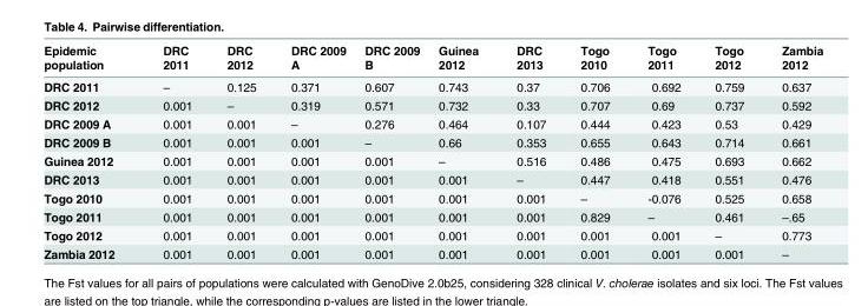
<table><thead><tr><td>Epidemic population</td><td>DRC 2011</td><td>DRC 2012</td><td>DRC 2009 A</td><td>DRC 2009 B</td><td>Guinea 2012</td><td>DRC 2013</td><td>Togo 2010</td><td>Togo 2011</td><td>Togo 2012</td><td>Zambia 2012</td></tr></thead><tbody><tr><td>DRC 2011</td><td>–</td><td>0.125</td><td>0.371</td><td>0.607</td><td>0.743</td><td>0.37</td><td>0.706</td><td>0.692</td><td>0.759</td><td>0.637</td></tr><tr><td>DRC 2012</td><td>0.001</td><td>–</td><td>0.319</td><td>0.571</td><td>0.732</td><td>0.33</td><td>0.707</td><td>0.69</td><td>0.737</td><td>0.592</td></tr><tr><td>DRC 2009 A</td><td>0.001</td><td>0.001</td><td>–</td><td>0.276</td><td>0.464</td><td>0.107</td><td>0.444</td><td>0.423</td><td>0.53</td><td>0.429</td></tr><tr><td>DRC 2009 B</td><td>0.001</td><td>0.001</td><td>0.001</td><td>–</td><td>0.66</td><td>0.353</td><td>0.655</td><td>0.643</td><td>0.714</td><td>0.661</td></tr><tr><td>Guinea 2012</td><td>0.001</td><td>0.001</td><td>0.001</td><td>0.001</td><td>–</td><td>0.516</td><td>0.486</td><td>0.475</td><td>0.693</td><td>0.662</td></tr><tr><td>DRC 2013</td><td>0.001</td><td>0.001</td><td>0.001</td><td>0.001</td><td>0.001</td><td>–</td><td>0.447</td><td>0.418</td><td>0.551</td><td>0.476</td></tr><tr><td>Togo 2010</td><td>0.001</td><td>0.001</td><td>0.001</td><td>0.001</td><td>0.001</td><td>0.001</td><td>–</td><td>-0.076</td><td>0.525</td><td>0.658</td></tr><tr><td>Togo 2011</td><td>0.001</td><td>0.001</td><td>0.001</td><td>0.001</td><td>0.001</td><td>0.001</td><td>0.829</td><td>–</td><td>0.461</td><td>–.65</td></tr><tr><td>Togo 2012</td><td>0.001</td><td>0.001</td><td>0.001</td><td>0.001</td><td>0.001</td><td>0.001</td><td>0.001</td><td>0.001</td><td>–</td><td>0.773</td></tr><tr><td>Zambia 2012</td><td>0.001</td><td>0.001</td><td>0.001</td><td>0.001</td><td>0.001</td><td>0.001</td><td>0.001</td><td>0.001</td><td>0.001</td><td>–</td></tr></tbody></table>